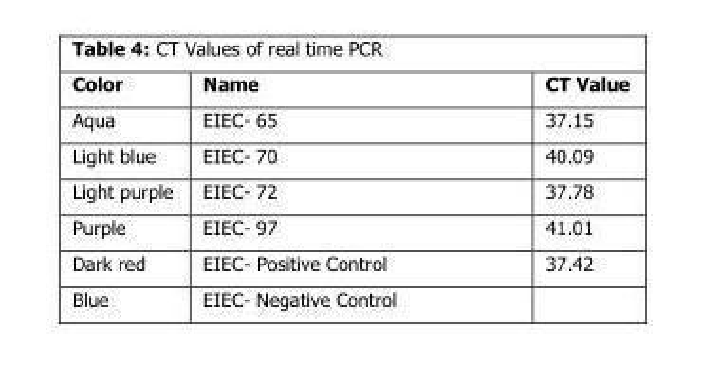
<table><thead><tr><td>Color</td><td>Name</td><td>CT Value</td></tr></thead><tbody><tr><td>Aqua</td><td>EIEC- 65</td><td>37.15</td></tr><tr><td>Light blue</td><td>EIEC- 70</td><td>40.09</td></tr><tr><td>Light purple</td><td>EIEC- 72</td><td>37.78</td></tr><tr><td>Purple</td><td>EIEC- 97</td><td>41.01</td></tr><tr><td>Dark red</td><td>EIEC- Positive Control</td><td>37.42</td></tr><tr><td>Blue</td><td>EIEC- Negative Control</td><td></td></tr></tbody></table>